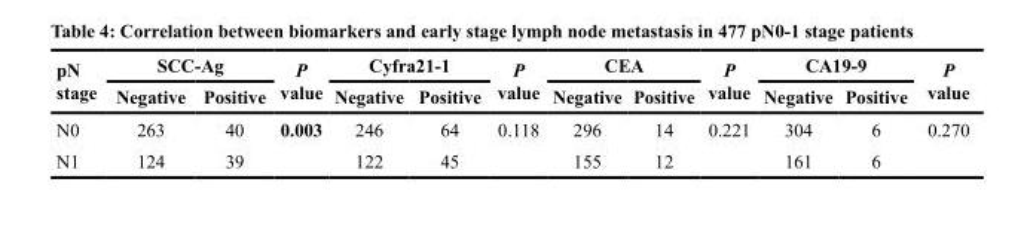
<table><thead><tr><td rowspan="2">pN stage</td><td colspan="2">SCC-Ag</td><td rowspan="2">P value</td><td colspan="2">Cyfra21-1</td><td rowspan="2">P value</td><td colspan="2">CEA</td><td rowspan="2">P value</td><td colspan="2">CA19-9</td><td rowspan="2">P value</td></tr><tr><td>Negative</td><td>Positive</td><td>Negative</td><td>Positive</td><td>Negative</td><td>Positive</td><td>Negative</td><td>Positive</td></tr></thead><tbody><tr><td>N0</td><td>263</td><td>40</td><td>0.003</td><td>246</td><td>64</td><td>0.118</td><td>296</td><td>14</td><td>0.221</td><td>304</td><td>6</td><td>0.270</td></tr><tr><td>N1</td><td>124</td><td>39</td><td></td><td>122</td><td>45</td><td></td><td>155</td><td>12</td><td></td><td>161</td><td>6</td><td></td></tr></tbody></table>